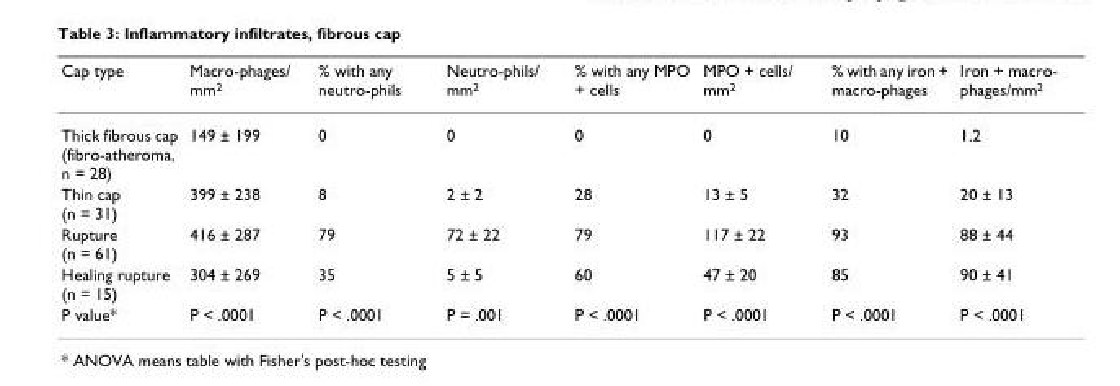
<table><thead><tr><td>Cap type</td><td>Macro-phages/ mm<sup>2</sup></td><td>% with any neutro-phils</td><td>Neutro-phils/ mm<sup>2</sup></td><td>% with any MPO + cells</td><td>MPO + cells/ mm<sup>2</sup></td><td>% with any iron + macro-phages</td><td>Iron + macro- phages/mm<sup>2</sup></td></tr></thead><tbody><tr><td>Thick fibrous cap (fibro-atheroma, n = 28)</td><td>149 ± 199</td><td>0</td><td>0</td><td>0</td><td>0</td><td>10</td><td>1.2</td></tr><tr><td>Thin cap (n = 31)</td><td>399 ± 238</td><td>8</td><td>2 ± 2</td><td>28</td><td>13 ± 5</td><td>32</td><td>20 ± 13</td></tr><tr><td>Rupture (n = 61)</td><td>416 ± 287</td><td>79</td><td>72 ± 22</td><td>79</td><td>117 ± 22</td><td>93</td><td>88 ± 44</td></tr><tr><td>Healing rupture (n = 15)</td><td>304 ± 269</td><td>35</td><td>5 ± 5</td><td>60</td><td>47 ± 20</td><td>85</td><td>90 ± 41</td></tr><tr><td>P value*</td><td>P &lt; .0001</td><td>P &lt; .0001</td><td>P = .001</td><td>P &lt; .0001</td><td>P &lt; .0001</td><td>P &lt; .0001</td><td>P &lt; .0001</td></tr></tbody></table>